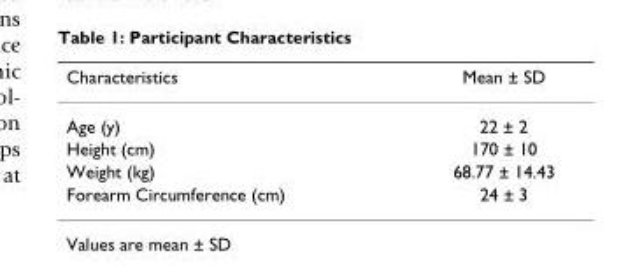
<table><thead><tr><td>Characteristics</td><td>Mean ± SD</td></tr></thead><tbody><tr><td>Age (y)</td><td>22 ± 2</td></tr><tr><td>Height (cm)</td><td>170 ± 10</td></tr><tr><td>Weight (kg)</td><td>68.77 ± 14.43</td></tr><tr><td>Forearm Circumference (cm)</td><td>24 ± 3</td></tr></tbody></table>